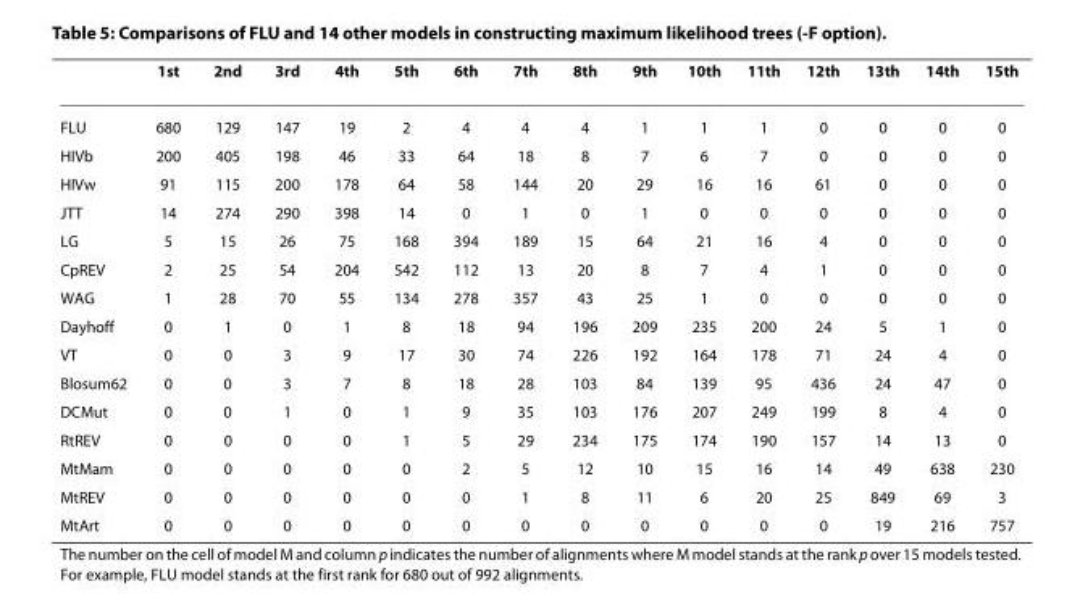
<table><thead><tr><td></td><td>1<sup>st</sup></td><td>2<sup>nd</sup></td><td>3<sup>rd</sup></td><td>4<sup>th</sup></td><td>5<sup>th</sup></td><td>6<sup>th</sup></td><td>7<sup>th</sup></td><td>8<sup>th</sup></td><td>9<sup>th</sup></td><td>10<sup>th</sup></td><td>11<sup>th</sup></td><td>12<sup>th</sup></td><td>13<sup>th</sup></td><td>14<sup>th</sup></td><td>15<sup>th</sup></td></tr></thead><tbody><tr><td>FLU</td><td>680</td><td>129</td><td>147</td><td>19</td><td>2</td><td>4</td><td>4</td><td>4</td><td>1</td><td>1</td><td>1</td><td>0</td><td>0</td><td>0</td><td>0</td></tr><tr><td>HIVb</td><td>200</td><td>405</td><td>198</td><td>46</td><td>33</td><td>64</td><td>18</td><td>8</td><td>7</td><td>6</td><td>7</td><td>0</td><td>0</td><td>0</td><td>0</td></tr><tr><td>HIVw</td><td>91</td><td>115</td><td>200</td><td>178</td><td>64</td><td>58</td><td>144</td><td>20</td><td>29</td><td>16</td><td>16</td><td>61</td><td>0</td><td>0</td><td>0</td></tr><tr><td>JTT</td><td>14</td><td>274</td><td>290</td><td>398</td><td>14</td><td>0</td><td>1</td><td>0</td><td>1</td><td>0</td><td>0</td><td>0</td><td>0</td><td>0</td><td>0</td></tr><tr><td>LG</td><td>5</td><td>15</td><td>26</td><td>75</td><td>168</td><td>394</td><td>189</td><td>15</td><td>64</td><td>21</td><td>16</td><td>4</td><td>0</td><td>0</td><td>0</td></tr><tr><td>CpREV</td><td>2</td><td>25</td><td>54</td><td>204</td><td>542</td><td>112</td><td>13</td><td>20</td><td>8</td><td>7</td><td>4</td><td>1</td><td>0</td><td>0</td><td>0</td></tr><tr><td>WAG</td><td>1</td><td>28</td><td>70</td><td>55</td><td>134</td><td>278</td><td>357</td><td>43</td><td>25</td><td>1</td><td>0</td><td>0</td><td>0</td><td>0</td><td>0</td></tr><tr><td>Dayhoff</td><td>0</td><td>1</td><td>0</td><td>1</td><td>8</td><td>18</td><td>94</td><td>196</td><td>209</td><td>235</td><td>200</td><td>24</td><td>5</td><td>1</td><td>0</td></tr><tr><td>VT</td><td>0</td><td>0</td><td>3</td><td>9</td><td>17</td><td>30</td><td>74</td><td>226</td><td>192</td><td>164</td><td>178</td><td>71</td><td>24</td><td>4</td><td>0</td></tr><tr><td>Blosum62</td><td>0</td><td>0</td><td>3</td><td>7</td><td>8</td><td>18</td><td>28</td><td>103</td><td>84</td><td>139</td><td>95</td><td>436</td><td>24</td><td>47</td><td>0</td></tr><tr><td>DCMut</td><td>0</td><td>0</td><td>1</td><td>0</td><td>1</td><td>9</td><td>35</td><td>103</td><td>176</td><td>207</td><td>249</td><td>199</td><td>8</td><td>4</td><td>0</td></tr><tr><td>RtREV</td><td>0</td><td>0</td><td>0</td><td>0</td><td>1</td><td>5</td><td>29</td><td>234</td><td>175</td><td>174</td><td>190</td><td>157</td><td>14</td><td>13</td><td>0</td></tr><tr><td>MtMam</td><td>0</td><td>0</td><td>0</td><td>0</td><td>0</td><td>2</td><td>5</td><td>12</td><td>10</td><td>15</td><td>16</td><td>14</td><td>49</td><td>638</td><td>230</td></tr><tr><td>MtREV</td><td>0</td><td>0</td><td>0</td><td>0</td><td>0</td><td>0</td><td>1</td><td>8</td><td>11</td><td>6</td><td>20</td><td>25</td><td>849</td><td>69</td><td>3</td></tr><tr><td>MtArt</td><td>0</td><td>0</td><td>0</td><td>0</td><td>0</td><td>0</td><td>0</td><td>0</td><td>0</td><td>0</td><td>0</td><td>0</td><td>19</td><td>216</td><td>757</td></tr></tbody></table>